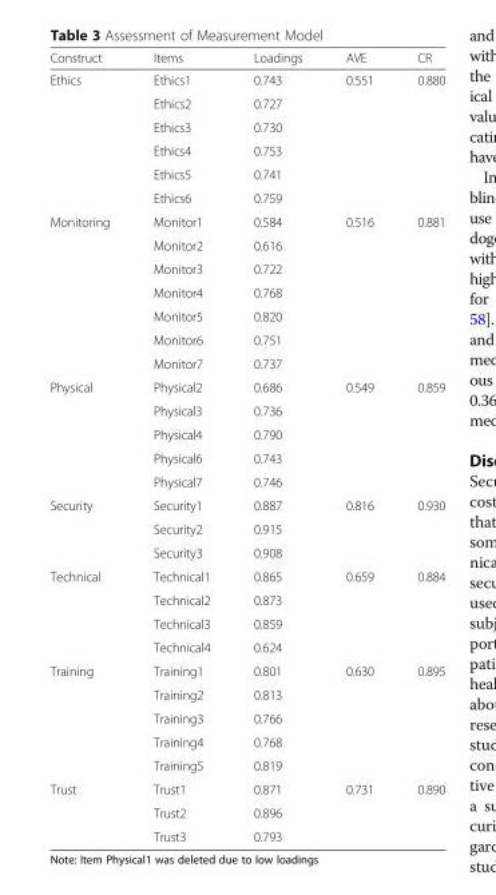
<table><thead><tr><td>Construct</td><td>Items</td><td>Loadings</td><td>AVE</td><td>CR</td></tr></thead><tbody><tr><td rowspan="6">Ethics</td><td>Ethics1</td><td>0.743</td><td>0.551</td><td>0.880</td></tr><tr><td>Ethics2</td><td>0.727</td><td></td><td></td></tr><tr><td>Ethics3</td><td>0.730</td><td></td><td></td></tr><tr><td>Ethics4</td><td>0.753</td><td></td><td></td></tr><tr><td>Ethics5</td><td>0.741</td><td></td><td></td></tr><tr><td>Ethics6</td><td>0.759</td><td></td><td></td></tr><tr><td rowspan="7">Monitoring</td><td>Monitor1</td><td>0.584</td><td>0.516</td><td>0.881</td></tr><tr><td>Monitor2</td><td>0.616</td><td></td><td></td></tr><tr><td>Monitor3</td><td>0.722</td><td></td><td></td></tr><tr><td>Monitor4</td><td>0.768</td><td></td><td></td></tr><tr><td>Monitor5</td><td>0.820</td><td></td><td></td></tr><tr><td>Monitor6</td><td>0.751</td><td></td><td></td></tr><tr><td>Monitor7</td><td>0.737</td><td></td><td></td></tr><tr><td rowspan="5">Physical</td><td>Physical2</td><td>0.686</td><td>0.549</td><td>0.859</td></tr><tr><td>Physical3</td><td>0.736</td><td></td><td></td></tr><tr><td>Physical4</td><td>0.790</td><td></td><td></td></tr><tr><td>Physical6</td><td>0.743</td><td></td><td></td></tr><tr><td>Physical7</td><td>0.746</td><td></td><td></td></tr><tr><td rowspan="3">Security</td><td>Security1</td><td>0.887</td><td>0.816</td><td>0.930</td></tr><tr><td>Security2</td><td>0.915</td><td></td><td></td></tr><tr><td>Security3</td><td>0.908</td><td></td><td></td></tr><tr><td rowspan="4">Technical</td><td>Technical1</td><td>0.865</td><td>0.659</td><td>0.884</td></tr><tr><td>Technical2</td><td>0.873</td><td></td><td></td></tr><tr><td>Technical3</td><td>0.859</td><td></td><td></td></tr><tr><td>Technical4</td><td>0.624</td><td></td><td></td></tr><tr><td rowspan="5">Training</td><td>Training1</td><td>0.801</td><td>0.630</td><td>0.895</td></tr><tr><td>Training2</td><td>0.813</td><td></td><td></td></tr><tr><td>Training3</td><td>0.766</td><td></td><td></td></tr><tr><td>Training4</td><td>0.768</td><td></td><td></td></tr><tr><td>Training5</td><td>0.819</td><td></td><td></td></tr><tr><td rowspan="3">Trust</td><td>Trust1</td><td>0.871</td><td>0.731</td><td>0.890</td></tr><tr><td>Trust2</td><td>0.896</td><td></td><td></td></tr><tr><td>Trust3</td><td>0.793</td><td></td><td></td></tr></tbody></table>